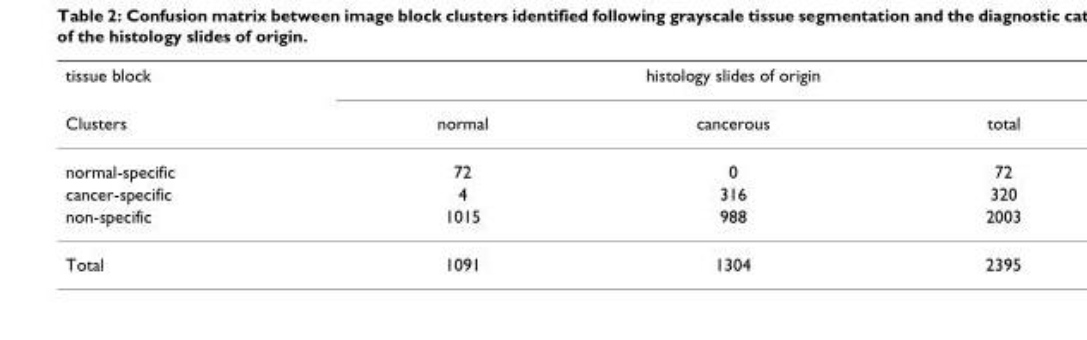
<table><thead><tr><td rowspan="2">tissue block Clusters</td><td colspan="3">histology slides of origin</td></tr><tr><td>normal</td><td>cancerous</td><td>total</td></tr></thead><tbody><tr><td>normal-specific</td><td>72</td><td>0</td><td>72</td></tr><tr><td>cancer-specific</td><td>4</td><td>316</td><td>320</td></tr><tr><td>non-specific</td><td>1015</td><td>988</td><td>2003</td></tr><tr><td>Total</td><td>1091</td><td>1304</td><td>2395</td></tr></tbody></table>